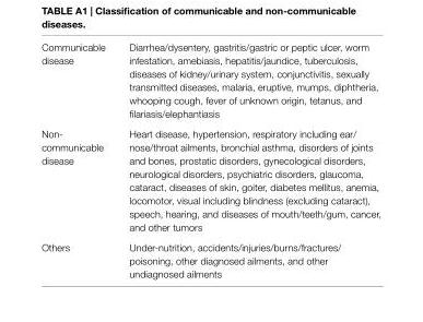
<table><tbody><tr><td>Communicable disease</td><td>Diarrhea/dysentery, gastritis/gastric or peptic ulcer, worm infestation, amebiasis, hepatitis/jaundice, tuberculosis, diseases of kidney/urinary system, conjunctivitis, sexually transmitted diseases, malaria, eruptive, mumps, diphtheria, whooping cough, fever of unknown origin, tetanus, and filariasis/elephantiasis</td></tr><tr><td>Non- communicable disease</td><td>Heart disease, hypertension, respiratory including ear/ nose/throat ailments, bronchial asthma, disorders of joints and bones, prostatic disorders, gynecological disorders, neurological disorders, psychiatric disorders, glaucoma, cataract, diseases of skin, goiter, diabetes mellitus, anemia, locomotor, visual including blindness (excluding cataract), speech, hearing, and diseases of mouth/teeth/gum, cancer, and other tumors</td></tr><tr><td>Others</td><td>Under-nutrition, accidents/injuries/burns/fractures/ poisoning, other diagnosed ailments, and other undiagnosed ailments</td></tr></tbody></table>